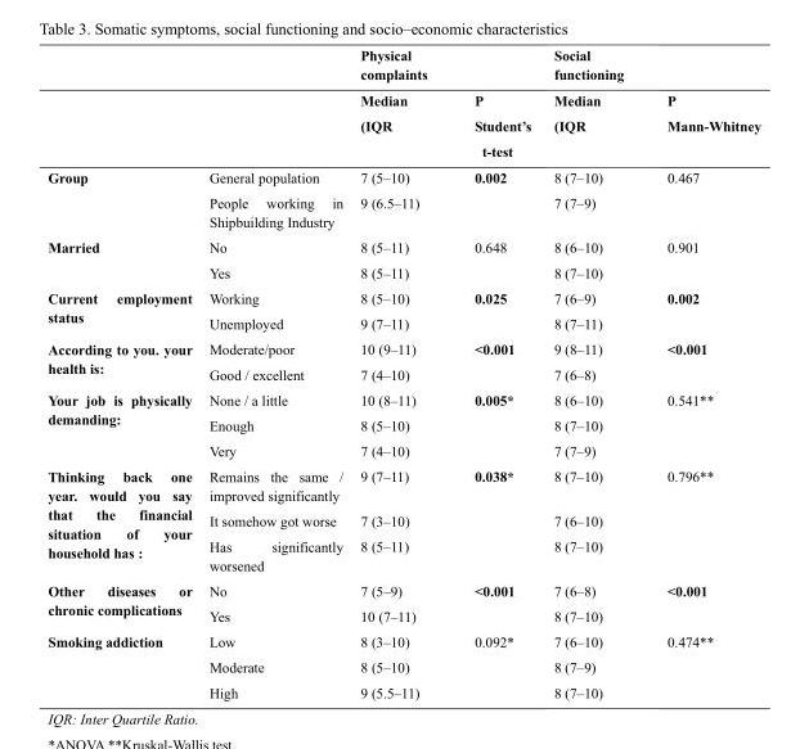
<table><thead><tr><td rowspan="2"></td><td rowspan="2"></td><td rowspan="2">Physical complaints Median (IQR</td><td rowspan="2">P Student’s t-test</td><td rowspan="2">Social functioning Median (IQR</td><td rowspan="2">P Mann-Whitney</td></tr><tr></tr></thead><tbody><tr><td rowspan="2">Group</td><td>General population</td><td>7 (5–10)</td><td>0.002</td><td>8 (7–10)</td><td>0.467</td></tr><tr><td>People working in Shipbuilding Industry</td><td>9 (6.5–11)</td><td></td><td>7 (7–9)</td><td></td></tr><tr><td rowspan="2">Married</td><td>No</td><td>8 (5–11)</td><td>0.648</td><td>8 (6–10)</td><td>0.901</td></tr><tr><td>Yes</td><td>8 (5–11)</td><td></td><td>8 (7–10)</td><td></td></tr><tr><td rowspan="2">Current employment status</td><td>Working</td><td>8 (5–10)</td><td>0.025</td><td>7 (6–9)</td><td>0.002</td></tr><tr><td>Unemployed</td><td>9 (7–11)</td><td></td><td>8 (7–11)</td><td></td></tr><tr><td rowspan="2">According to you. your health is:</td><td>Moderate/poor</td><td>10 (9–11)</td><td>&lt;0.001</td><td>9 (8–11)</td><td>&lt;0.001</td></tr><tr><td>Good / excellent</td><td>7 (4–10)</td><td></td><td>7 (6–8)</td><td></td></tr><tr><td rowspan="3">Your job is physically demanding:</td><td>None / a little</td><td>10 (8–11)</td><td>0.005*</td><td>8 (6–10)</td><td>0.541**</td></tr><tr><td>Enough</td><td>8 (5–10)</td><td></td><td>8 (7–10)</td><td></td></tr><tr><td>Very</td><td>7 (4–10)</td><td></td><td>7 (7–9)</td><td></td></tr><tr><td rowspan="3">Thinking back one year. would you say that the financial situation of your household has :</td><td>Remains the same / improved significantly</td><td>9 (7–11)</td><td>0.038*</td><td>8 (7–10)</td><td>0.796**</td></tr><tr><td>It somehow got worse</td><td>7 (3–10)</td><td></td><td>7 (6–10)</td><td></td></tr><tr><td>Has significantly worsened</td><td>8 (5–11)</td><td></td><td>8 (7–10)</td><td></td></tr><tr><td rowspan="2">Other diseases or chronic complications</td><td>No</td><td>7 (5–9)</td><td>&lt;0.001</td><td>7 (6–8)</td><td>&lt;0.001</td></tr><tr><td>Yes</td><td>10 (7–11)</td><td></td><td>8 (7–10)</td><td></td></tr><tr><td rowspan="3">Smoking addiction</td><td>Low</td><td>8 (3–10)</td><td>0.092*</td><td>7 (6–10)</td><td>0.474**</td></tr><tr><td>Moderate</td><td>8 (5–10)</td><td></td><td>8 (7–9)</td><td></td></tr><tr><td>High</td><td>9 (5.5–11)</td><td></td><td>8 (7–10)</td><td></td></tr></tbody></table>